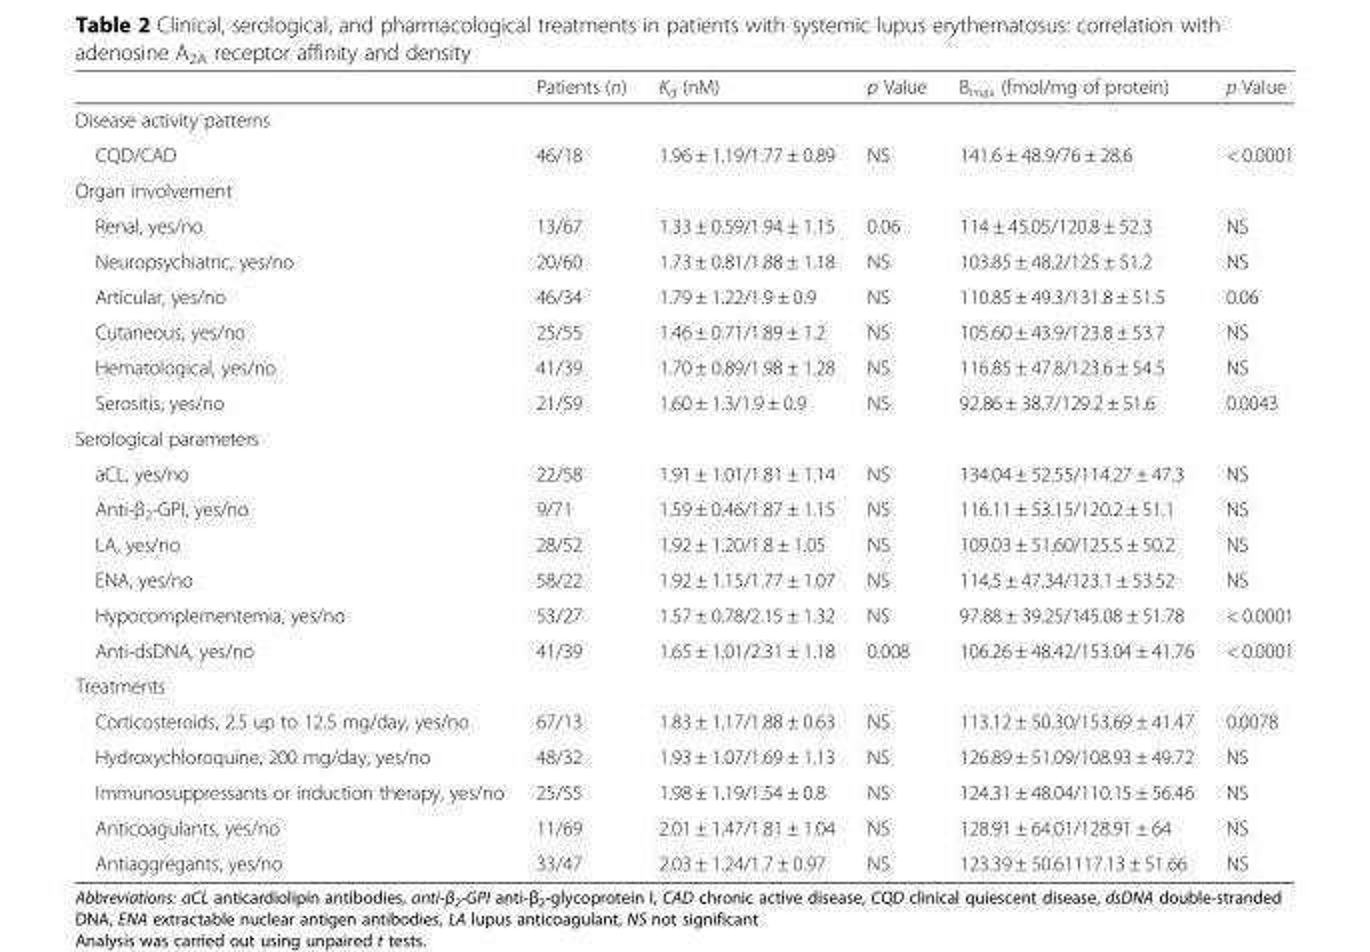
<table><thead><tr><td></td><td>Patients (n)</td><td>K<sub>d</sub> (nM)</td><td>p Value</td><td>B<sub>max</sub> (fmol/mg of protein)</td><td>p Value</td></tr></thead><tbody><tr><td colspan="6">Disease activity patterns</td></tr><tr><td>CQD/CAD</td><td>46/18</td><td>1.96 ± 1.19/1.77 ± 0.89</td><td>NS</td><td>141.6 ± 48.9/76 ± 28.6</td><td>&lt; 0.0001</td></tr><tr><td colspan="6">Organ involvement</td></tr><tr><td>Renal, yes/no</td><td>13/67</td><td>1.33 ± 0.59/1.94 ± 1.15</td><td>0.06</td><td>114 ± 45.05/120.8 ± 52.3</td><td>NS</td></tr><tr><td>Neuropsychiatric, yes/no</td><td>20/60</td><td>1.73 ± 0.81/1.88 ± 1.18</td><td>NS</td><td>103.85 ± 48.2/125 ± 51.2</td><td>NS</td></tr><tr><td>Articular, yes/no</td><td>46/34</td><td>1.79 ± 1.22/1.9 ± 0.9</td><td>NS</td><td>110.85 ± 49.3/131.8 ± 51.5</td><td>0.06</td></tr><tr><td>Cutaneous, yes/no</td><td>25/55</td><td>1.46 ± 0.71/1.89 ± 1.2</td><td>NS</td><td>105.60 ± 43.9/123.8 ± 53.7</td><td>NS</td></tr><tr><td>Hematological, yes/no</td><td>41/39</td><td>1.70 ± 0.89/1.98 ± 1.28</td><td>NS</td><td>116.85 ± 47.8/123.6 ± 54.5</td><td>NS</td></tr><tr><td>Serositis, yes/no</td><td>21/59</td><td>1.60 ± 1.3/1.9 ± 0.9</td><td>NS</td><td>92.86 ± 38.7/129.2 ± 51.6</td><td>0.0043</td></tr><tr><td colspan="6">Serological parameters</td></tr><tr><td>aCL, yes/no</td><td>22/58</td><td>1.91 ± 1.01/1.81 ± 1.14</td><td>NS</td><td>134.04 ± 52.55/114.27 ± 47.3</td><td>NS</td></tr><tr><td>Anti-β<sub>2</sub>-GPI, yes/no</td><td>9/71</td><td>1.59 ± 0.46/1.87 ± 1.15</td><td>NS</td><td>116.11 ± 53.15/120.2 ± 51.1</td><td>NS</td></tr><tr><td>LA, yes/no</td><td>28/52</td><td>1.92 ± 1.20/1.8 ± 1.05</td><td>NS</td><td>109.03 ± 51.60/125.5 ± 50.2</td><td>NS</td></tr><tr><td>ENA, yes/no</td><td>58/22</td><td>1.92 ± 1.15/1.77 ± 1.07</td><td>NS</td><td>114,5 ± 47.34/123.1 ± 53.52</td><td>NS</td></tr><tr><td>Hypocomplementemia, yes/no</td><td>53/27</td><td>1.57 ± 0.78/2.15 ± 1.32</td><td>NS</td><td>97.88 ± 39.25/145.08 ± 51.78</td><td>&lt; 0.0001</td></tr><tr><td>Anti-dsDNA, yes/no</td><td>41/39</td><td>1.65 ± 1.01/2.31 ± 1.18</td><td>0.008</td><td>106.26 ± 48.42/153.04 ± 41.76</td><td>&lt; 0.0001</td></tr><tr><td colspan="6">Treatments</td></tr><tr><td>Corticosteroids, 2.5 up to 12.5 mg/day, yes/no</td><td>67/13</td><td>1.83 ± 1.17/1.88 ± 0.63</td><td>NS</td><td>113.12 ± 50.30/153.69 ± 41.47</td><td>0.0078</td></tr><tr><td>Hydroxychloroquine, 200 mg/day, yes/no</td><td>48/32</td><td>1.93 ± 1.07/1.69 ± 1.13</td><td>NS</td><td>126.89 ± 51.09/108.93 ± 49.72</td><td>NS</td></tr><tr><td>Immunosuppressants or induction therapy, yes/no</td><td>25/55</td><td>1.98 ± 1.19/1.54 ± 0.8</td><td>NS</td><td>124.31 ± 48.04/110.15 ± 56.46</td><td>NS</td></tr><tr><td>Anticoagulants, yes/no</td><td>11/69</td><td>2.01 ± 1.47/1.81 ± 1.04</td><td>NS</td><td>128.91 ± 64.01/128.91 ± 64</td><td>NS</td></tr><tr><td>Antiaggregants, yes/no</td><td>33/47</td><td>2.03 ± 1.24/1.7 ± 0.97</td><td>NS</td><td>123.39 ± 50.61117.13 ± 51.66</td><td>NS</td></tr></tbody></table>